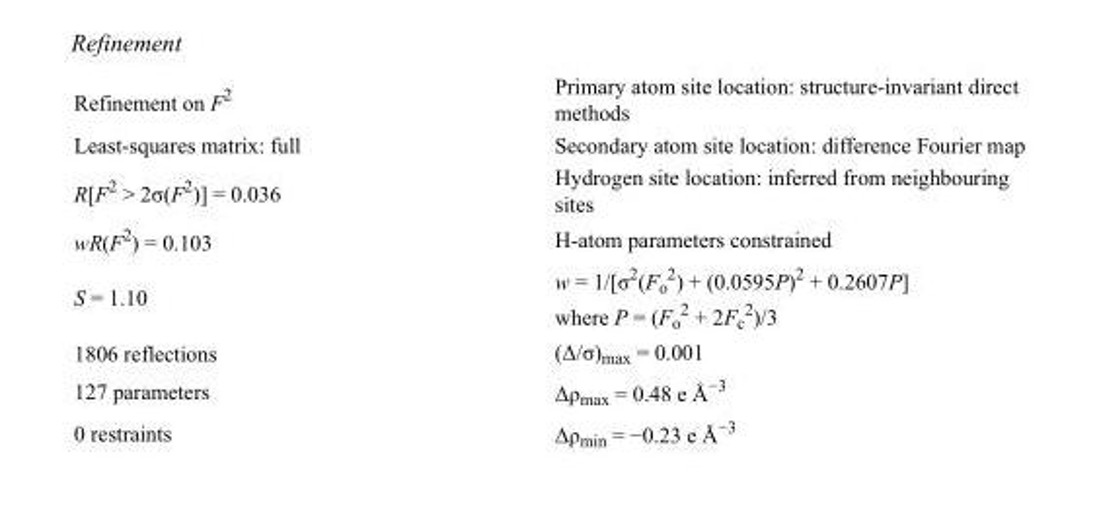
<table><tbody><tr><td>Refinement on F<sup>2</sup></td><td>Primary atom site location: structure-invariant direct methods</td></tr><tr><td>Least-squares matrix: full</td><td>Secondary atom site location: difference Fourier map</td></tr><tr><td>R[F<sup>2</sup> &gt; 2σ(F<sup>2</sup>)] = 0.036</td><td>Hydrogen site location: inferred from neighbouring sites</td></tr><tr><td>wR(F<sup>2</sup>) = 0.103</td><td>H-atom parameters constrained</td></tr><tr><td>S = 1.10</td><td>w = 1/[σ<sup>2</sup>(F<sub>o</sub> <sup>2</sup>) + (0.0595P)<sup>2</sup> + 0.2607P] where P = (F<sub>o</sub> <sup>2</sup> + 2F<sub>c</sub> <sup>2</sup>)/3</td></tr><tr><td>1806 reflections</td><td>(Δ/σ)<sub>max</sub> = 0.001</td></tr><tr><td>127 parameters</td><td>Δρ<sub>max</sub> = 0.48 e Å<sup>−3</sup></td></tr><tr><td>0 restraints</td><td>Δρ<sub>min</sub> = −0.23 e Å<sup>−3</sup></td></tr></tbody></table>